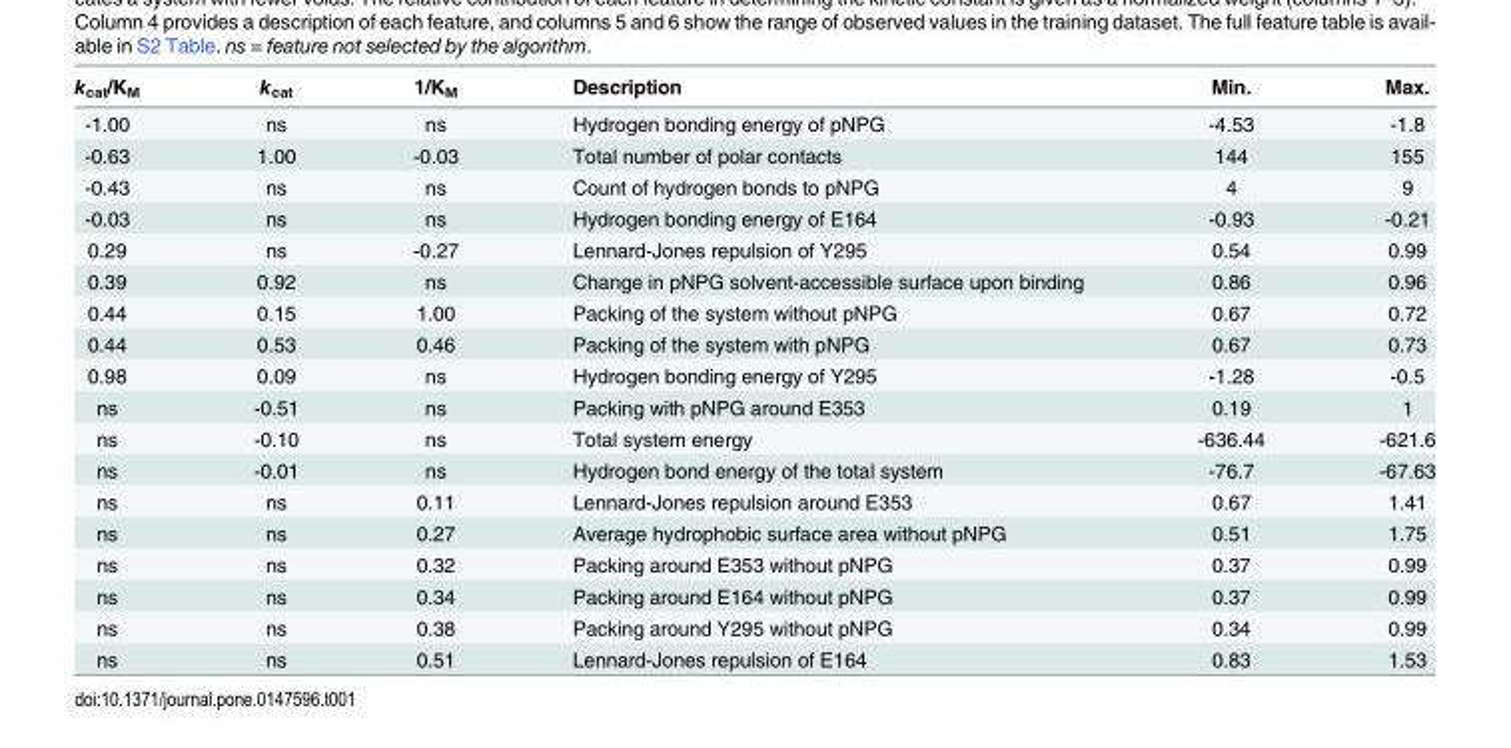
<table><thead><tr><td>k<sub>cat</sub>/K<sub>M</sub></td><td>k<sub>cat</sub></td><td>1/K<sub>M</sub></td><td>Description</td><td>Min.</td><td>Max.</td></tr></thead><tbody><tr><td>-1.00</td><td>ns</td><td>ns</td><td>Hydrogen bonding energy of pNPG</td><td>-4.53</td><td>-1.8</td></tr><tr><td>-0.63</td><td>1.00</td><td>-0.03</td><td>Total number of polar contacts</td><td>144</td><td>155</td></tr><tr><td>-0.43</td><td>ns</td><td>ns</td><td>Count of hydrogen bonds to pNPG</td><td>4</td><td>9</td></tr><tr><td>-0.03</td><td>ns</td><td>ns</td><td>Hydrogen bonding energy of E164</td><td>-0.93</td><td>-0.21</td></tr><tr><td>0.29</td><td>ns</td><td>-0.27</td><td>Lennard-Jones repulsion of Y295</td><td>0.54</td><td>0.99</td></tr><tr><td>0.39</td><td>0.92</td><td>ns</td><td>Change in pNPG solvent-accessible surface upon binding</td><td>0.86</td><td>0.96</td></tr><tr><td>0.44</td><td>0.15</td><td>1.00</td><td>Packing of the system without pNPG</td><td>0.67</td><td>0.72</td></tr><tr><td>0.44</td><td>0.53</td><td>0.46</td><td>Packing of the system with pNPG</td><td>0.67</td><td>0.73</td></tr><tr><td>0.98</td><td>0.09</td><td>ns</td><td>Hydrogen bonding energy of Y295</td><td>-1.28</td><td>-0.5</td></tr><tr><td>ns</td><td>-0.51</td><td>ns</td><td>Packing with pNPG around E353</td><td>0.19</td><td>1</td></tr><tr><td>ns</td><td>-0.10</td><td>ns</td><td>Total system energy</td><td>-636.44</td><td>-621.6</td></tr><tr><td>ns</td><td>-0.01</td><td>ns</td><td>Hydrogen bond energy of the total system</td><td>-76.7</td><td>-67.63</td></tr><tr><td>ns</td><td>ns</td><td>0.11</td><td>Lennard-Jones repulsion around E353</td><td>0.67</td><td>1.41</td></tr><tr><td>ns</td><td>ns</td><td>0.27</td><td>Average hydrophobic surface area without pNPG</td><td>0.51</td><td>1.75</td></tr><tr><td>ns</td><td>ns</td><td>0.32</td><td>Packing around E353 without pNPG</td><td>0.37</td><td>0.99</td></tr><tr><td>ns</td><td>ns</td><td>0.34</td><td>Packing around E164 without pNPG</td><td>0.37</td><td>0.99</td></tr><tr><td>ns</td><td>ns</td><td>0.38</td><td>Packing around Y295 without pNPG</td><td>0.34</td><td>0.99</td></tr><tr><td>ns</td><td>ns</td><td>0.51</td><td>Lennard-Jones repulsion of E164</td><td>0.83</td><td>1.53</td></tr></tbody></table>